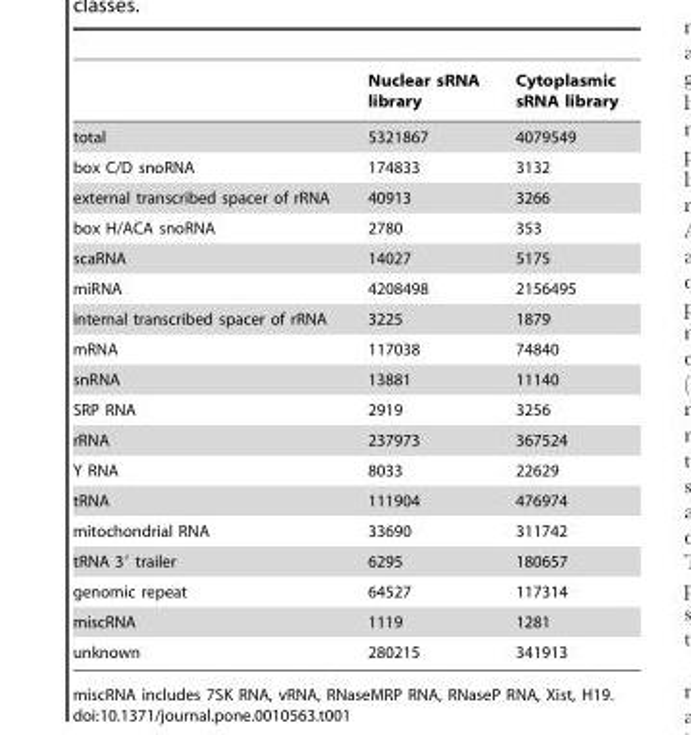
<table><thead><tr><td></td><td>Nuclear sRNA library</td><td>Cytoplasmic sRNA library</td></tr></thead><tbody><tr><td>total</td><td>5321867</td><td>4079549</td></tr><tr><td>box C/D snoRNA</td><td>174833</td><td>3132</td></tr><tr><td>external transcribed spacer of rRNA</td><td>40913</td><td>3266</td></tr><tr><td>box H/ACA snoRNA</td><td>2780</td><td>353</td></tr><tr><td>scaRNA</td><td>14027</td><td>5175</td></tr><tr><td>miRNA</td><td>4208498</td><td>2156495</td></tr><tr><td>internal transcribed spacer of rRNA</td><td>3225</td><td>1879</td></tr><tr><td>mRNA</td><td>117038</td><td>74840</td></tr><tr><td>snRNA</td><td>13881</td><td>11140</td></tr><tr><td>SRP RNA</td><td>2919</td><td>3256</td></tr><tr><td>rRNA</td><td>237973</td><td>367524</td></tr><tr><td>Y RNA</td><td>8033</td><td>22629</td></tr><tr><td>tRNA</td><td>111904</td><td>476974</td></tr><tr><td>mitochondrial RNA</td><td>33690</td><td>311742</td></tr><tr><td>tRNA 3′ trailer</td><td>6295</td><td>180657</td></tr><tr><td>genomic repeat</td><td>64527</td><td>117314</td></tr><tr><td>miscRNA</td><td>1119</td><td>1281</td></tr><tr><td>unknown</td><td>280215</td><td>341913</td></tr></tbody></table>